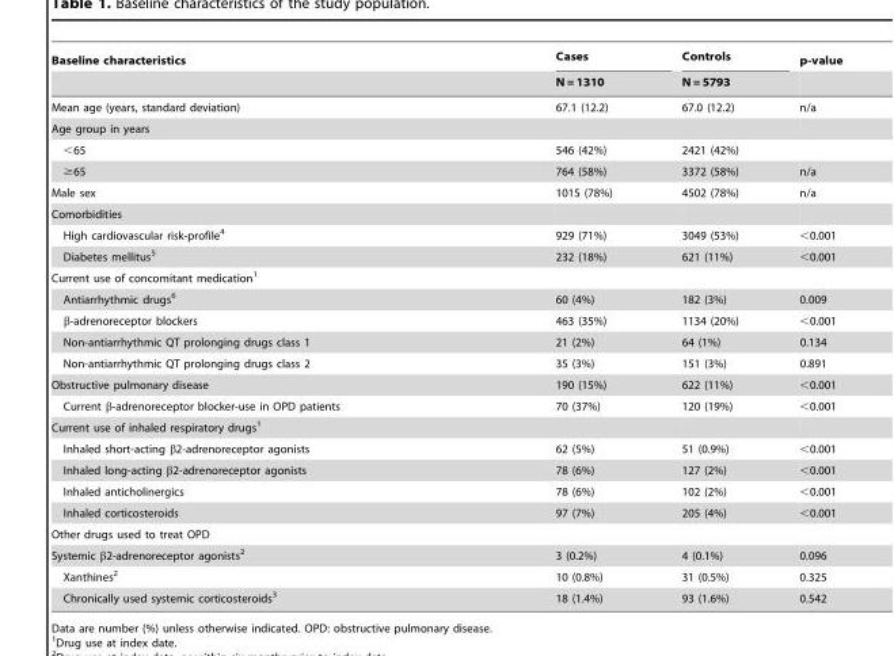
<table><thead><tr><td rowspan="2">Baseline characteristics</td><td rowspan="2">Cases N = 1310</td><td rowspan="2">Controls N = 5793</td><td rowspan="2">p-value</td></tr><tr></tr></thead><tbody><tr><td>Mean age (years, standard deviation)</td><td>67.1 (12.2)</td><td>67.0 (12.2)</td><td>n/a</td></tr><tr><td colspan="4">Age group in years</td></tr><tr><td>&lt;65</td><td>546 (42%)</td><td>2421 (42%)</td><td></td></tr><tr><td>≥65</td><td>764 (58%)</td><td>3372 (58%)</td><td>n/a</td></tr><tr><td>Male sex</td><td>1015 (78%)</td><td>4502 (78%)</td><td>n/a</td></tr><tr><td colspan="4">Comorbidities</td></tr><tr><td>High cardiovascular risk-profile<sup>4</sup></td><td>929 (71%)</td><td>3049 (53%)</td><td>&lt;0.001</td></tr><tr><td>Diabetes mellitus<sup>5</sup></td><td>232 (18%)</td><td>621 (11%)</td><td>&lt;0.001</td></tr><tr><td colspan="4">Current use of concomitant medication<sup>1</sup></td></tr><tr><td>Antiarrhythmic drugs<sup>6</sup></td><td>60 (4%)</td><td>182 (3%)</td><td>0.009</td></tr><tr><td>β-adrenoreceptor blockers</td><td>463 (35%)</td><td>1134 (20%)</td><td>&lt;0.001</td></tr><tr><td>Non-antiarrhythmic QT prolonging drugs class 1</td><td>21 (2%)</td><td>64 (1%)</td><td>0.134</td></tr><tr><td>Non-antiarrhythmic QT prolonging drugs class 2</td><td>35 (3%)</td><td>151 (3%)</td><td>0.891</td></tr><tr><td>Obstructive pulmonary disease</td><td>190 (15%)</td><td>622 (11%)</td><td>&lt;0.001</td></tr><tr><td>Current β-adrenoreceptor blocker-use in OPD patients</td><td>70 (37%)</td><td>120 (19%)</td><td>&lt;0.001</td></tr><tr><td colspan="4">Current use of inhaled respiratory drugs<sup>1</sup></td></tr><tr><td>Inhaled short-acting β2-adrenoreceptor agonists</td><td>62 (5%)</td><td>51 (0.9%)</td><td>&lt;0.001</td></tr><tr><td>Inhaled long-acting β2-adrenoreceptor agonists</td><td>78 (6%)</td><td>127 (2%)</td><td>&lt;0.001</td></tr><tr><td>Inhaled anticholinergics</td><td>78 (6%)</td><td>102 (2%)</td><td>&lt;0.001</td></tr><tr><td>Inhaled corticosteroids</td><td>97 (7%)</td><td>205 (4%)</td><td>&lt;0.001</td></tr><tr><td colspan="4">Other drugs used to treat OPD</td></tr><tr><td>Systemic β2-adrenoreceptor agonists<sup>2</sup></td><td>3 (0.2%)</td><td>4 (0.1%)</td><td>0.096</td></tr><tr><td>Xanthines<sup>2</sup></td><td>10 (0.8%)</td><td>31 (0.5%)</td><td>0.325</td></tr><tr><td>Chronically used systemic corticosteroids<sup>3</sup></td><td>18 (1.4%)</td><td>93 (1.6%)</td><td>0.542</td></tr></tbody></table>